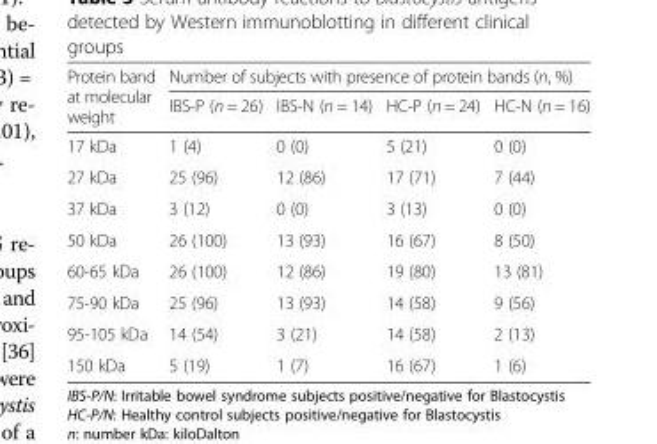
<table><thead><tr><td rowspan="2">Protein band at molecular weight</td><td colspan="4">Number of subjects with presence of protein bands (n, %)</td></tr><tr><td>IBS-P (n = 26)</td><td>IBS-N (n = 14)</td><td>HC-P (n = 24)</td><td>HC-N (n = 16)</td></tr></thead><tbody><tr><td>17 kDa</td><td>1 (4)</td><td>0 (0)</td><td>5 (21)</td><td>0 (0)</td></tr><tr><td>27 kDa</td><td>25 (96)</td><td>12 (86)</td><td>17 (71)</td><td>7 (44)</td></tr><tr><td>37 kDa</td><td>3 (12)</td><td>0 (0)</td><td>3 (13)</td><td>0 (0)</td></tr><tr><td>50 kDa</td><td>26 (100)</td><td>13 (93)</td><td>16 (67)</td><td>8 (50)</td></tr><tr><td>60-65 kDa</td><td>26 (100)</td><td>12 (86)</td><td>19 (80)</td><td>13 (81)</td></tr><tr><td>75-90 kDa</td><td>25 (96)</td><td>13 (93)</td><td>14 (58)</td><td>9 (56)</td></tr><tr><td>95-105 kDa</td><td>14 (54)</td><td>3 (21)</td><td>14 (58)</td><td>2 (13)</td></tr><tr><td>150 kDa</td><td>5 (19)</td><td>1 (7)</td><td>16 (67)</td><td>1 (6)</td></tr></tbody></table>